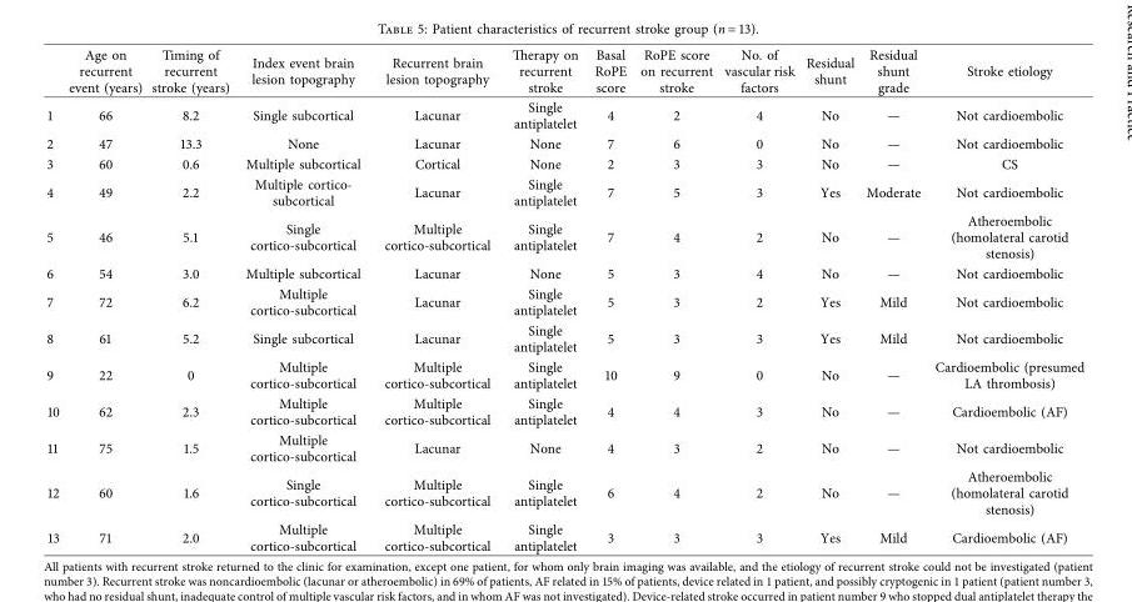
<table><thead><tr><td></td><td>Age on recurrent event (years)</td><td>Timing of recurrent stroke (years)</td><td>Index event brain lesion topography</td><td>Recurrent brain lesion topography</td><td>Terapy on recurrent stroke</td><td>Basal RoPE score</td><td>RoPE score on recurrent stroke</td><td>No. of vascular risk factors</td><td>Residual shunt</td><td>Residual shunt grade</td><td>Stroke etiology</td></tr></thead><tbody><tr><td>1</td><td>66</td><td>8.2</td><td>Single subcortical</td><td>Lacunar</td><td>Single antiplatelet</td><td>4</td><td>2</td><td>4</td><td>No</td><td>—</td><td>Not cardioembolic</td></tr><tr><td>2</td><td>47</td><td>13.3</td><td>None</td><td>Lacunar</td><td>None</td><td>7</td><td>6</td><td>0</td><td>No</td><td>—</td><td>Not cardioembolic</td></tr><tr><td>3</td><td>60</td><td>0.6</td><td>Multiple subcortical</td><td>Cortical</td><td>None</td><td>2</td><td>3</td><td>3</td><td>No</td><td>—</td><td>CS</td></tr><tr><td>4</td><td>49</td><td>2.2</td><td>Multiple cortico- subcortical</td><td>Lacunar</td><td>Single antiplatelet</td><td>7</td><td>5</td><td>3</td><td>Yes</td><td>Moderate</td><td>Not cardioembolic</td></tr><tr><td>5</td><td>46</td><td>5.1</td><td>Single cortico-subcortical</td><td>Multiple cortico-subcortical</td><td>Single antiplatelet</td><td>7</td><td>4</td><td>2</td><td>No</td><td>—</td><td>Atheroembolic (homolateral carotid stenosis)</td></tr><tr><td>6</td><td>54</td><td>3.0</td><td>Multiple subcortical</td><td>Lacunar</td><td>None</td><td>5</td><td>3</td><td>4</td><td>No</td><td>—</td><td>Not cardioembolic</td></tr><tr><td>7</td><td>72</td><td>6.2</td><td>Multiple cortico-subcortical</td><td>Lacunar</td><td>Single antiplatelet</td><td>5</td><td>3</td><td>2</td><td>Yes</td><td>Mild</td><td>Not cardioembolic</td></tr><tr><td>8</td><td>61</td><td>5.2</td><td>Single subcortical</td><td>Lacunar</td><td>Single antiplatelet</td><td>5</td><td>3</td><td>3</td><td>Yes</td><td>Mild</td><td>Not cardioembolic</td></tr><tr><td>9</td><td>22</td><td>0</td><td>Multiple cortico-subcortical</td><td>Multiple cortico-subcortical</td><td>Single antiplatelet</td><td>10</td><td>9</td><td>0</td><td>No</td><td>—</td><td>Cardioembolic (presumed LA thrombosis)</td></tr><tr><td>10</td><td>62</td><td>2.3</td><td>Multiple cortico-subcortical</td><td>Multiple cortico-subcortical</td><td>Single antiplatelet</td><td>4</td><td>4</td><td>3</td><td>No</td><td>—</td><td>Cardioembolic (AF)</td></tr><tr><td>11</td><td>75</td><td>1.5</td><td>Multiple cortico-subcortical</td><td>Lacunar</td><td>None</td><td>4</td><td>3</td><td>2</td><td>No</td><td>—</td><td>Not cardioembolic</td></tr><tr><td>12</td><td>60</td><td>1.6</td><td>Single cortico-subcortical</td><td>Multiple cortico-subcortical</td><td>Single antiplatelet</td><td>6</td><td>4</td><td>2</td><td>No</td><td>—</td><td>Atheroembolic (homolateral carotid stenosis)</td></tr><tr><td>13</td><td>71</td><td>2.0</td><td>Multiple cortico-subcortical</td><td>Multiple cortico-subcortical</td><td>Single antiplatelet</td><td>3</td><td>3</td><td>3</td><td>Yes</td><td>Mild</td><td>Cardioembolic (AF)</td></tr></tbody></table>